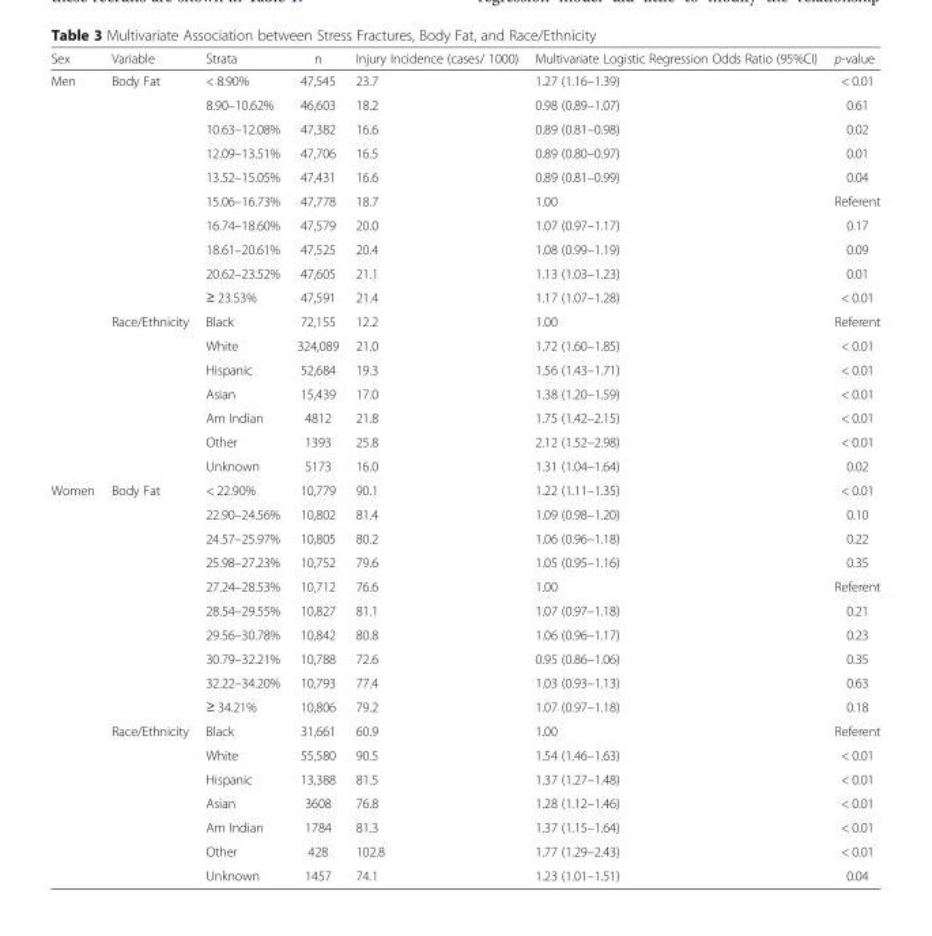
<table><thead><tr><td>Sex</td><td>Variable</td><td>Strata</td><td>n</td><td>Injury Incidence (cases/ 1000)</td><td>Multivariate Logistic Regression Odds Ratio (95%CI)</td><td>p-value</td></tr></thead><tbody><tr><td rowspan="17">Men</td><td rowspan="10">Body Fat</td><td>&lt; 8.90%</td><td>47,545</td><td>23.7</td><td>1.27 (1.16–1.39)</td><td>&lt; 0.01</td></tr><tr><td>8.90–10.62%</td><td>46,603</td><td>18.2</td><td>0.98 (0.89–1.07)</td><td>0.61</td></tr><tr><td>10.63–12.08%</td><td>47,382</td><td>16.6</td><td>0.89 (0.81–0.98)</td><td>0.02</td></tr><tr><td>12.09–13.51%</td><td>47,706</td><td>16.5</td><td>0.89 (0.80–0.97)</td><td>0.01</td></tr><tr><td>13.52–15.05%</td><td>47,431</td><td>16.6</td><td>0.89 (0.81–0.99)</td><td>0.04</td></tr><tr><td>15.06–16.73%</td><td>47,778</td><td>18.7</td><td>1.00</td><td>Referent</td></tr><tr><td>16.74–18.60%</td><td>47,579</td><td>20.0</td><td>1.07 (0.97–1.17)</td><td>0.17</td></tr><tr><td>18.61–20.61%</td><td>47,525</td><td>20.4</td><td>1.08 (0.99–1.19)</td><td>0.09</td></tr><tr><td>20.62–23.52%</td><td>47,605</td><td>21.1</td><td>1.13 (1.03–1.23)</td><td>0.01</td></tr><tr><td>≥ 23.53%</td><td>47,591</td><td>21.4</td><td>1.17 (1.07–1.28)</td><td>&lt; 0.01</td></tr><tr><td rowspan="7">Race/Ethnicity</td><td>Black</td><td>72,155</td><td>12.2</td><td>1.00</td><td>Referent</td></tr><tr><td>White</td><td>324,089</td><td>21.0</td><td>1.72 (1.60–1.85)</td><td>&lt; 0.01</td></tr><tr><td>Hispanic</td><td>52,684</td><td>19.3</td><td>1.56 (1.43–1.71)</td><td>&lt; 0.01</td></tr><tr><td>Asian</td><td>15,439</td><td>17.0</td><td>1.38 (1.20–1.59)</td><td>&lt; 0.01</td></tr><tr><td>Am Indian</td><td>4812</td><td>21.8</td><td>1.75 (1.42–2.15)</td><td>&lt; 0.01</td></tr><tr><td>Other</td><td>1393</td><td>25.8</td><td>2.12 (1.52–2.98)</td><td>&lt; 0.01</td></tr><tr><td>Unknown</td><td>5173</td><td>16.0</td><td>1.31 (1.04–1.64)</td><td>0.02</td></tr><tr><td rowspan="17">Women</td><td rowspan="10">Body Fat</td><td>&lt; 22.90%</td><td>10,779</td><td>90.1</td><td>1.22 (1.11–1.35)</td><td>&lt; 0.01</td></tr><tr><td>22.90–24.56%</td><td>10,802</td><td>81.4</td><td>1.09 (0.98–1.20)</td><td>0.10</td></tr><tr><td>24.57–25.97%</td><td>10,805</td><td>80.2</td><td>1.06 (0.96–1.18)</td><td>0.22</td></tr><tr><td>25.98–27.23%</td><td>10,752</td><td>79.6</td><td>1.05 (0.95–1.16)</td><td>0.35</td></tr><tr><td>27.24–28.53%</td><td>10,712</td><td>76.6</td><td>1.00</td><td>Referent</td></tr><tr><td>28.54–29.55%</td><td>10,827</td><td>81.1</td><td>1.07 (0.97–1.18)</td><td>0.21</td></tr><tr><td>29.56–30.78%</td><td>10,842</td><td>80.8</td><td>1.06 (0.96–1.17)</td><td>0.23</td></tr><tr><td>30.79–32.21%</td><td>10,788</td><td>72.6</td><td>0.95 (0.86–1.06)</td><td>0.35</td></tr><tr><td>32.22–34.20%</td><td>10,793</td><td>77.4</td><td>1.03 (0.93–1.13)</td><td>0.63</td></tr><tr><td>≥ 34.21%</td><td>10,806</td><td>79.2</td><td>1.07 (0.97–1.18)</td><td>0.18</td></tr><tr><td rowspan="7">Race/Ethnicity</td><td>Black</td><td>31,661</td><td>60.9</td><td>1.00</td><td>Referent</td></tr><tr><td>White</td><td>55,580</td><td>90.5</td><td>1.54 (1.46–1.63)</td><td>&lt; 0.01</td></tr><tr><td>Hispanic</td><td>13,388</td><td>81.5</td><td>1.37 (1.27–1.48)</td><td>&lt; 0.01</td></tr><tr><td>Asian</td><td>3608</td><td>76.8</td><td>1.28 (1.12–1.46)</td><td>&lt; 0.01</td></tr><tr><td>Am Indian</td><td>1784</td><td>81.3</td><td>1.37 (1.15–1.64)</td><td>&lt; 0.01</td></tr><tr><td>Other</td><td>428</td><td>102.8</td><td>1.77 (1.29–2.43)</td><td>&lt; 0.01</td></tr><tr><td>Unknown</td><td>1457</td><td>74.1</td><td>1.23 (1.01–1.51)</td><td>0.04</td></tr></tbody></table>